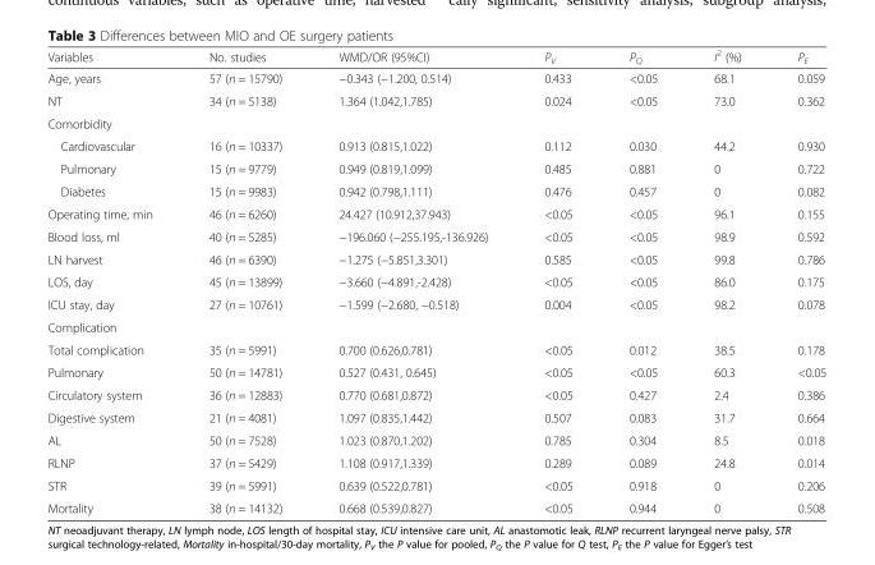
<table><thead><tr><td>Variables</td><td>No. studies</td><td>WMD/OR (95%CI)</td><td>P<sub>V</sub></td><td>P<sub>Q</sub></td><td>I<sup>2</sup> (%)</td><td>P<sub>E</sub></td></tr></thead><tbody><tr><td>Age, years</td><td>57 (n = 15790)</td><td>−0.343 (−1.200, 0.514)</td><td>0.433</td><td>&lt;0.05</td><td>68.1</td><td>0.059</td></tr><tr><td>NT</td><td>34 (n = 5138)</td><td>1.364 (1.042,1.785)</td><td>0.024</td><td>&lt;0.05</td><td>73.0</td><td>0.362</td></tr><tr><td colspan="7">Comorbidity</td></tr><tr><td>Cardiovascular</td><td>16 (n = 10337)</td><td>0.913 (0.815,1.022)</td><td>0.112</td><td>0.030</td><td>44.2</td><td>0.930</td></tr><tr><td>Pulmonary</td><td>15 (n = 9779)</td><td>0.949 (0.819,1.099)</td><td>0.485</td><td>0.881</td><td>0</td><td>0.722</td></tr><tr><td>Diabetes</td><td>15 (n = 9983)</td><td>0.942 (0.798,1.111)</td><td>0.476</td><td>0.457</td><td>0</td><td>0.082</td></tr><tr><td>Operating time, min</td><td>46 (n = 6260)</td><td>24.427 (10.912,37.943)</td><td>&lt;0.05</td><td>&lt;0.05</td><td>96.1</td><td>0.155</td></tr><tr><td>Blood loss, ml</td><td>40 (n = 5285)</td><td>−196.060 (−255.195,-136.926)</td><td>&lt;0.05</td><td>&lt;0.05</td><td>98.9</td><td>0.592</td></tr><tr><td>LN harvest</td><td>46 (n = 6390)</td><td>−1.275 (−5.851,3.301)</td><td>0.585</td><td>&lt;0.05</td><td>99.8</td><td>0.786</td></tr><tr><td>LOS, day</td><td>45 (n = 13899)</td><td>−3.660 (−4.891,-2.428)</td><td>&lt;0.05</td><td>&lt;0.05</td><td>86.0</td><td>0.175</td></tr><tr><td>ICU stay, day</td><td>27 (n = 10761)</td><td>−1.599 (−2.680, −0.518)</td><td>0.004</td><td>&lt;0.05</td><td>98.2</td><td>0.078</td></tr><tr><td colspan="7">Complication</td></tr><tr><td>Total complication</td><td>35 (n = 5991)</td><td>0.700 (0.626,0.781)</td><td>&lt;0.05</td><td>0.012</td><td>38.5</td><td>0.178</td></tr><tr><td>Pulmonary</td><td>50 (n = 14781)</td><td>0.527 (0.431, 0.645)</td><td>&lt;0.05</td><td>&lt;0.05</td><td>60.3</td><td>&lt;0.05</td></tr><tr><td>Circulatory system</td><td>36 (n = 12883)</td><td>0.770 (0.681,0.872)</td><td>&lt;0.05</td><td>0.427</td><td>2.4</td><td>0.386</td></tr><tr><td>Digestive system</td><td>21 (n = 4081)</td><td>1.097 (0.835,1.442)</td><td>0.507</td><td>0.083</td><td>31.7</td><td>0.664</td></tr><tr><td>AL</td><td>50 (n = 7528)</td><td>1.023 (0.870,1.202)</td><td>0.785</td><td>0.304</td><td>8.5</td><td>0.018</td></tr><tr><td>RLNP</td><td>37 (n = 5429)</td><td>1.108 (0.917,1.339)</td><td>0.289</td><td>0.089</td><td>24.8</td><td>0.014</td></tr><tr><td>STR</td><td>39 (n = 5991)</td><td>0.639 (0.522,0.781)</td><td>&lt;0.05</td><td>0.918</td><td>0</td><td>0.206</td></tr><tr><td>Mortality</td><td>38 (n = 14132)</td><td>0.668 (0.539,0.827)</td><td>&lt;0.05</td><td>0.944</td><td>0</td><td>0.508</td></tr></tbody></table>